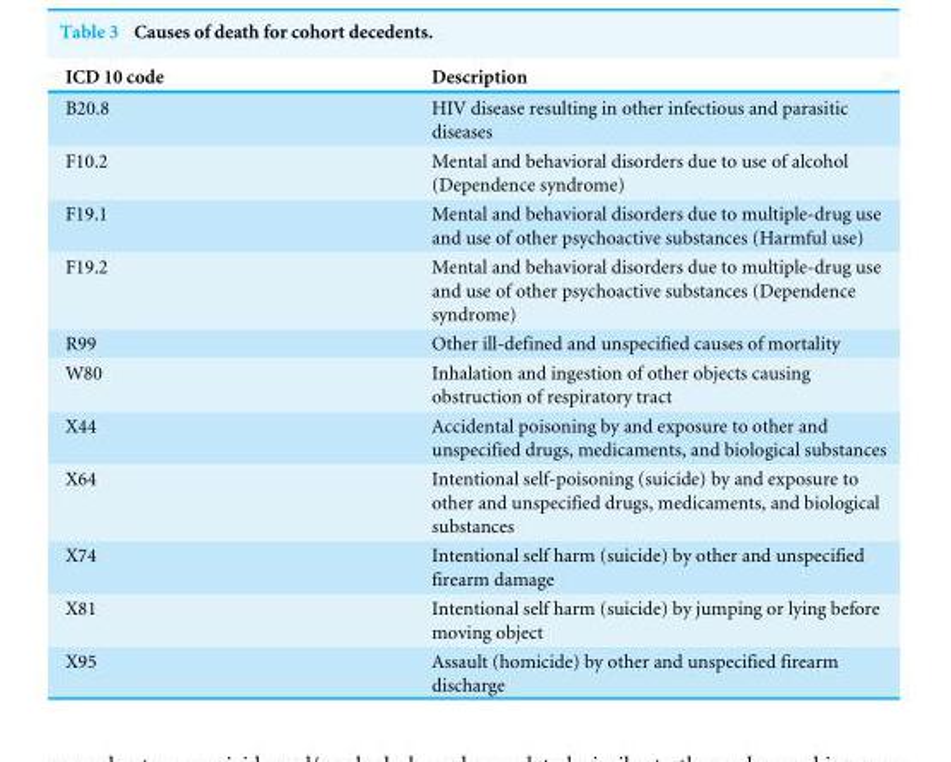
<table><thead><tr><td>ICD 10 code</td><td>Description</td></tr></thead><tbody><tr><td>B20.8</td><td>HIV disease resulting in other infectious and parasitic diseases</td></tr><tr><td>F10.2</td><td>Mental and behavioral disorders due to use of alcohol (Dependence syndrome)</td></tr><tr><td>F19.1</td><td>Mental and behavioral disorders due to multiple-drug use and use of other psychoactive substances (Harmful use)</td></tr><tr><td>F19.2</td><td>Mental and behavioral disorders due to multiple-drug use and use of other psychoactive substances (Dependence syndrome)</td></tr><tr><td>R99</td><td>Other ill-defined and unspecified causes of mortality</td></tr><tr><td>W80</td><td>Inhalation and ingestion of other objects causing obstruction of respiratory tract</td></tr><tr><td>X44</td><td>Accidental poisoning by and exposure to other and unspecified drugs, medicaments, and biological substances</td></tr><tr><td>X64</td><td>Intentional self-poisoning (suicide) by and exposure to other and unspecified drugs, medicaments, and biological substances</td></tr><tr><td>X74</td><td>Intentional self harm (suicide) by other and unspecified firearm damage</td></tr><tr><td>X81</td><td>Intentional self harm (suicide) by jumping or lying before moving object</td></tr><tr><td>X95</td><td>Assault (homicide) by other and unspecified firearm discharge</td></tr></tbody></table>